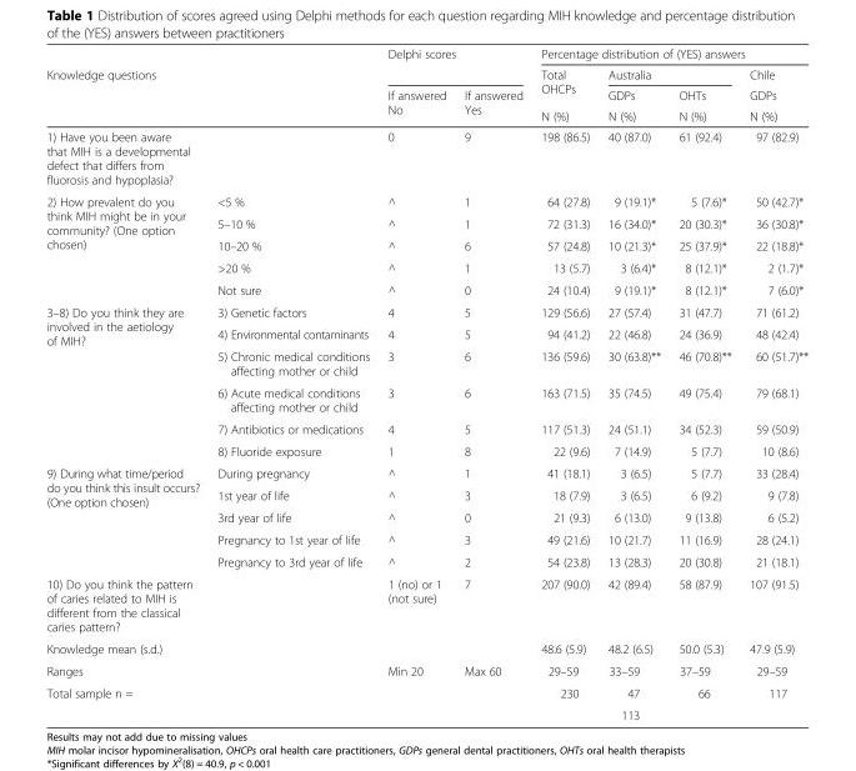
<table><thead><tr><td></td><td></td><td rowspan="2" colspan="2">Delphi scores</td><td colspan="4">Percentage distribution of (YES) answers</td></tr><tr><td rowspan="3" colspan="2">Knowledge questions</td><td rowspan="3">Total OHCPs N (%)</td><td colspan="2">Australia</td><td rowspan="3">Chile GDPs N (%)</td></tr><tr><td rowspan="2">If answered No</td><td rowspan="2">If answered Yes</td><td rowspan="2">GDPs N (%)</td><td rowspan="2">OHTs N (%)</td></tr><tr></tr></thead><tbody><tr><td colspan="2">1) Have you been aware that MIH is a developmental defect that differs from fluorosis and hypoplasia?</td><td>0</td><td>9</td><td>198 (86.5)</td><td>40 (87.0)</td><td>61 (92.4)</td><td>97 (82.9)</td></tr><tr><td rowspan="5">2) How prevalent do you think MIH might be in your community? (One option chosen)</td><td>&lt;5 %</td><td>^</td><td>1</td><td>64 (27.8)</td><td>9 (19.1)*</td><td>5 (7.6)*</td><td>50 (42.7)*</td></tr><tr><td>5–10 %</td><td>^</td><td>1</td><td>72 (31.3)</td><td>16 (34.0)*</td><td>20 (30.3)*</td><td>36 (30.8)*</td></tr><tr><td>10–20 %</td><td>^</td><td>6</td><td>57 (24.8)</td><td>10 (21.3)*</td><td>25 (37.9)*</td><td>22 (18.8)*</td></tr><tr><td>&gt;20 %</td><td>^</td><td>1</td><td>13 (5.7)</td><td>3 (6.4)*</td><td>8 (12.1)*</td><td>2 (1.7)*</td></tr><tr><td>Not sure</td><td>^</td><td>0</td><td>24 (10.4)</td><td>9 (19.1)*</td><td>8 (12.1)*</td><td>7 (6.0)*</td></tr><tr><td rowspan="6">3–8) Do you think they are involved in the aetiology of MIH?</td><td>3) Genetic factors</td><td>4</td><td>5</td><td>129 (56.6)</td><td>27 (57.4)</td><td>31 (47.7)</td><td>71 (61.2)</td></tr><tr><td>4) Environmental contaminants</td><td>4</td><td>5</td><td>94 (41.2)</td><td>22 (46.8)</td><td>24 (36.9)</td><td>48 (42.4)</td></tr><tr><td>5) Chronic medical conditions affecting mother or child</td><td>3</td><td>6</td><td>136 (59.6)</td><td>30 (63.8)**</td><td>46 (70.8)**</td><td>60 (51.7)**</td></tr><tr><td>6) Acute medical conditions affecting mother or child</td><td>3</td><td>6</td><td>163 (71.5)</td><td>35 (74.5)</td><td>49 (75.4)</td><td>79 (68.1)</td></tr><tr><td>7) Antibiotics or medications</td><td>4</td><td>5</td><td>117 (51.3)</td><td>24 (51.1)</td><td>34 (52.3)</td><td>59 (50.9)</td></tr><tr><td>8) Fluoride exposure</td><td>1</td><td>8</td><td>22 (9.6)</td><td>7 (14.9)</td><td>5 (7.7)</td><td>10 (8.6)</td></tr><tr><td rowspan="5">9) During what time/period do you think this insult occurs? (One option chosen)</td><td>During pregnancy</td><td>^</td><td>1</td><td>41 (18.1)</td><td>3 (6.5)</td><td>5 (7.7)</td><td>33 (28.4)</td></tr><tr><td>1st year of life</td><td>^</td><td>3</td><td>18 (7.9)</td><td>3 (6.5)</td><td>6 (9.2)</td><td>9 (7.8)</td></tr><tr><td>3rd year of life</td><td>^</td><td>0</td><td>21 (9.3)</td><td>6 (13.0)</td><td>9 (13.8)</td><td>6 (5.2)</td></tr><tr><td>Pregnancy to 1st year of life</td><td>^</td><td>3</td><td>49 (21.6)</td><td>10 (21.7)</td><td>11 (16.9)</td><td>28 (24.1)</td></tr><tr><td>Pregnancy to 3rd year of life</td><td>^</td><td>2</td><td>54 (23.8)</td><td>13 (28.3)</td><td>20 (30.8)</td><td>21 (18.1)</td></tr><tr><td colspan="2">10) Do you think the pattern of caries related to MIH is different from the classical caries pattern?</td><td>1 (no) or 1 (not sure)</td><td>7</td><td>207 (90.0)</td><td>42 (89.4)</td><td>58 (87.9)</td><td>107 (91.5)</td></tr><tr><td colspan="2">Knowledge mean (s.d.)</td><td></td><td></td><td>48.6 (5.9)</td><td>48.2 (6.5)</td><td>50.0 (5.3)</td><td>47.9 (5.9)</td></tr><tr><td colspan="2">Ranges</td><td>Min 20</td><td>Max 60</td><td>29–59</td><td>33–59</td><td>37–59</td><td>29–59</td></tr><tr><td rowspan="2" colspan="2">Total sample n =</td><td rowspan="2"></td><td rowspan="2"></td><td rowspan="2">230</td><td>47</td><td>66</td><td rowspan="2">117</td></tr><tr><td colspan="2">113</td></tr></tbody></table>